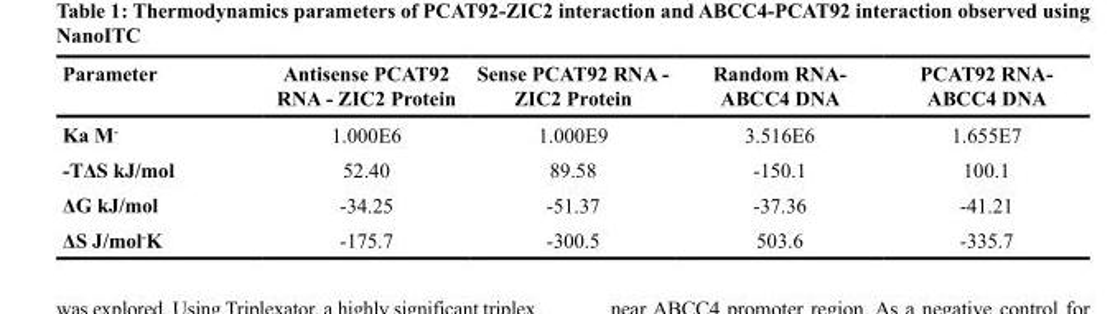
<table><thead><tr><td>Parameter</td><td>Antisense PCAT92 RNA - ZIC2 Protein</td><td>Sense PCAT92 RNA - ZIC2 Protein</td><td>Random RNA- ABCC4 DNA</td><td>PCAT92 RNA- ABCC4 DNA</td></tr></thead><tbody><tr><td>Ka M<sup>-</sup></td><td>1.000E6</td><td>1.000E9</td><td>3.516E6</td><td>1.655E7</td></tr><tr><td>-TΔS kJ/mol</td><td>52.40</td><td>89.58</td><td>-150.1</td><td>100.1</td></tr><tr><td>ΔG kJ/mol</td><td>-34.25</td><td>-51.37</td><td>-37.36</td><td>-41.21</td></tr><tr><td>ΔS J/mol<sup>-</sup>K</td><td>-175.7</td><td>-300.5</td><td>503.6</td><td>-335.7</td></tr></tbody></table>